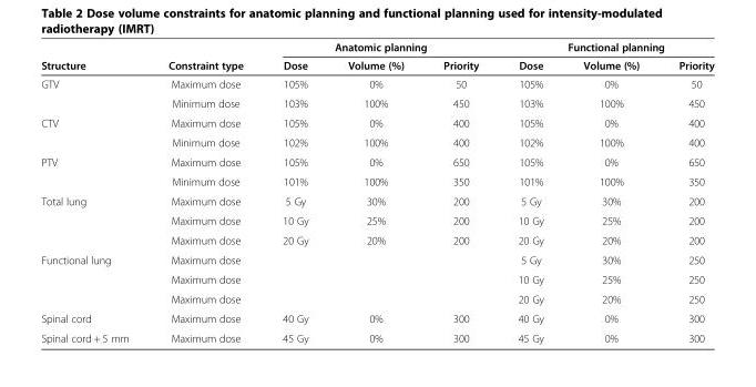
<table><thead><tr><td rowspan="2">Structure</td><td rowspan="2">Constraint type</td><td colspan="3">Anatomic planning</td><td colspan="3">Functional planning</td></tr><tr><td>Dose</td><td>Volume (%)</td><td>Priority</td><td>Dose</td><td>Volume (%)</td><td>Priority</td></tr></thead><tbody><tr><td rowspan="2">GTV</td><td>Maximum dose</td><td>105%</td><td>0%</td><td>50</td><td>105%</td><td>0%</td><td>50</td></tr><tr><td>Minimum dose</td><td>103%</td><td>100%</td><td>450</td><td>103%</td><td>100%</td><td>450</td></tr><tr><td rowspan="2">CTV</td><td>Maximum dose</td><td>105%</td><td>0%</td><td>400</td><td>105%</td><td>0%</td><td>400</td></tr><tr><td>Minimum dose</td><td>102%</td><td>100%</td><td>400</td><td>102%</td><td>100%</td><td>400</td></tr><tr><td rowspan="2">PTV</td><td>Maximum dose</td><td>105%</td><td>0%</td><td>650</td><td>105%</td><td>0%</td><td>650</td></tr><tr><td>Minimum dose</td><td>101%</td><td>100%</td><td>350</td><td>101%</td><td>100%</td><td>350</td></tr><tr><td rowspan="3">Total lung</td><td>Maximum dose</td><td>5 Gy</td><td>30%</td><td>200</td><td>5 Gy</td><td>30%</td><td>200</td></tr><tr><td>Maximum dose</td><td>10 Gy</td><td>25%</td><td>200</td><td>10 Gy</td><td>25%</td><td>200</td></tr><tr><td>Maximum dose</td><td>20 Gy</td><td>20%</td><td>200</td><td>20 Gy</td><td>20%</td><td>200</td></tr><tr><td rowspan="3">Functional lung</td><td>Maximum dose</td><td></td><td></td><td></td><td>5 Gy</td><td>30%</td><td>250</td></tr><tr><td>Maximum dose</td><td></td><td></td><td></td><td>10 Gy</td><td>25%</td><td>250</td></tr><tr><td>Maximum dose</td><td></td><td></td><td></td><td>20 Gy</td><td>20%</td><td>250</td></tr><tr><td>Spinal cord</td><td>Maximum dose</td><td>40 Gy</td><td>0%</td><td>300</td><td>40 Gy</td><td>0%</td><td>300</td></tr><tr><td>Spinal cord + 5 mm</td><td>Maximum dose</td><td>45 Gy</td><td>0%</td><td>300</td><td>45 Gy</td><td>0%</td><td>300</td></tr></tbody></table>